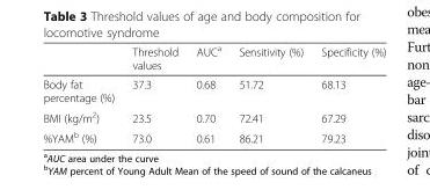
<table><thead><tr><td></td><td>Threshold values</td><td>AUC<sup>a</sup></td><td>Sensitivity (%)</td><td>Specificity (%)</td></tr></thead><tbody><tr><td>Body fat percentage (%)</td><td>37.3</td><td>0.68</td><td>51.72</td><td>68.13</td></tr><tr><td>BMI (kg/m<sup>2</sup>)</td><td>23.5</td><td>0.70</td><td>72.41</td><td>67.29</td></tr><tr><td>%YAM<sup>b</sup> (%)</td><td>73.0</td><td>0.61</td><td>86.21</td><td>79.23</td></tr></tbody></table>